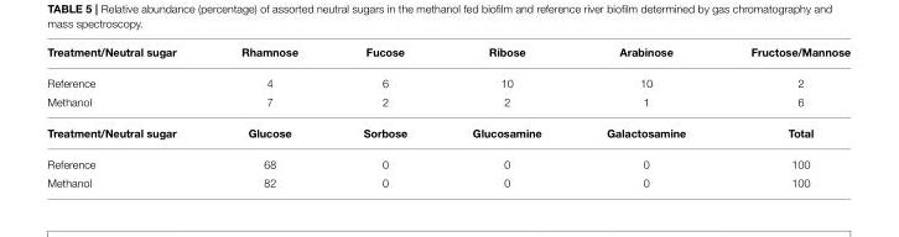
<table><thead><tr><td>Treatment/Neutral sugar</td><td>Rhamnose</td><td>Fucose</td><td>Ribose</td><td>Arabinose</td><td>Fructose/Mannose</td></tr></thead><tbody><tr><td>Reference</td><td>4</td><td>6</td><td>10</td><td>10</td><td>2</td></tr><tr><td>Methanol</td><td>7</td><td>2</td><td>2</td><td>1</td><td>6</td></tr><tr><td>Treatment/Neutral sugar</td><td>Glucose</td><td>Sorbose</td><td>Glucosamine</td><td>Galactosamine</td><td>Total</td></tr><tr><td>Reference</td><td>68</td><td>0</td><td>0</td><td>0</td><td>100</td></tr><tr><td>Methanol</td><td>82</td><td>0</td><td>0</td><td>0</td><td>100</td></tr></tbody></table>